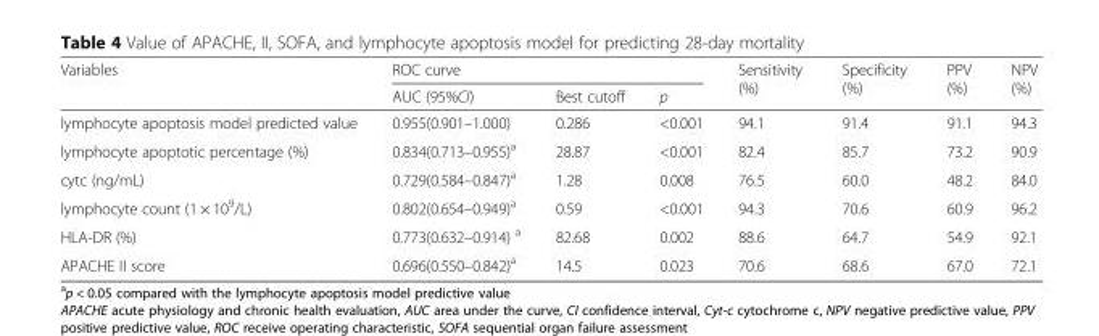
<table><thead><tr><td rowspan="2">Variables</td><td colspan="3">ROC curve</td><td rowspan="2">Sensitivity (%)</td><td rowspan="2">Specificity (%)</td><td rowspan="2">PPV (%)</td><td rowspan="2">NPV (%)</td></tr><tr><td>AUC (95%CI)</td><td>Best cutoff</td><td>p</td></tr></thead><tbody><tr><td>lymphocyte apoptosis model predicted value</td><td>0.955(0.901–1.000)</td><td>0.286</td><td>&lt;0.001</td><td>94.1</td><td>91.4</td><td>91.1</td><td>94.3</td></tr><tr><td>lymphocyte apoptotic percentage (%)</td><td>0.834(0.713–0.955)<sup>a</sup></td><td>28.87</td><td>&lt;0.001</td><td>82.4</td><td>85.7</td><td>73.2</td><td>90.9</td></tr><tr><td>cytc (ng/mL)</td><td>0.729(0.584–0.847)<sup>a</sup></td><td>1.28</td><td>0.008</td><td>76.5</td><td>60.0</td><td>48.2</td><td>84.0</td></tr><tr><td>lymphocyte count (1 × 10<sup>9</sup>/L)</td><td>0.802(0.654–0.949)<sup>a</sup></td><td>0.59</td><td>&lt;0.001</td><td>94.3</td><td>70.6</td><td>60.9</td><td>96.2</td></tr><tr><td>HLA-DR (%)</td><td>0.773(0.632–0.914) <sup>a</sup></td><td>82.68</td><td>0.002</td><td>88.6</td><td>64.7</td><td>54.9</td><td>92.1</td></tr><tr><td>APACHE II score</td><td>0.696(0.550–0.842)<sup>a</sup></td><td>14.5</td><td>0.023</td><td>70.6</td><td>68.6</td><td>67.0</td><td>72.1</td></tr></tbody></table>